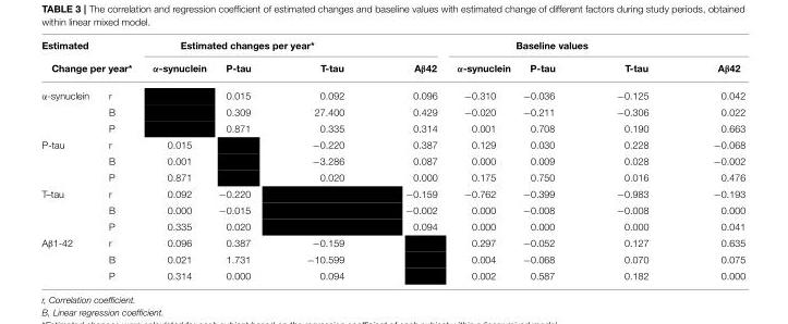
<table><thead><tr><td>Estimated</td><td colspan="4">Estimated changes per year*</td><td colspan="4">Baseline values</td><td rowspan="3">Aβ42 0.042</td></tr><tr><td colspan="2">Change per year*</td><td rowspan="2">α-synuclein</td><td rowspan="2">P-tau 0.015</td><td rowspan="2">T-tau 0.092</td><td rowspan="2">Aβ42 0.096</td><td rowspan="2">α-synuclein −0.310</td><td rowspan="2">P-tau −0.036</td><td rowspan="2">T-tau −0.125</td></tr><tr><td>α-synuclein</td><td>r</td></tr></thead><tbody><tr><td></td><td>B</td><td></td><td>0.309</td><td>27.400</td><td>0.429</td><td>−0.020</td><td>−0.211</td><td>−0.306</td><td>0.022</td></tr><tr><td></td><td>P</td><td></td><td>0.871</td><td>0.335</td><td>0.314</td><td>0.001</td><td>0.708</td><td>0.190</td><td>0.663</td></tr><tr><td rowspan="3">P-tau</td><td>r</td><td>0.015</td><td></td><td>−0.220</td><td>0.387</td><td>0.129</td><td>0.030</td><td>0.228</td><td>−0.068</td></tr><tr><td>B</td><td>0.001</td><td></td><td>−3.286</td><td>0.087</td><td>0.000</td><td>0.009</td><td>0.028</td><td>−0.002</td></tr><tr><td>P</td><td>0.871</td><td></td><td>0.020</td><td>0.000</td><td>0.175</td><td>0.750</td><td>0.016</td><td>0.476</td></tr><tr><td rowspan="3">T–tau</td><td>r</td><td>0.092</td><td>−0.220</td><td></td><td>−0.159</td><td>−0.762</td><td>−0.399</td><td>−0.983</td><td>−0.193</td></tr><tr><td>B</td><td>0.000</td><td>−0.015</td><td></td><td>−0.002</td><td>0.000</td><td>−0.008</td><td>−0.008</td><td>0.000</td></tr><tr><td>P</td><td>0.335</td><td>0.020</td><td></td><td>0.094</td><td>0.000</td><td>0.000</td><td>0.000</td><td>0.041</td></tr><tr><td rowspan="3">Aβ1-42</td><td>r</td><td>0.096</td><td>0.387</td><td>−0.159</td><td></td><td>0.297</td><td>−0.052</td><td>0.127</td><td>0.635</td></tr><tr><td>B</td><td>0.021</td><td>1.731</td><td>−10.599</td><td></td><td>0.004</td><td>−0.068</td><td>0.070</td><td>0.075</td></tr><tr><td>P</td><td>0.314</td><td>0.000</td><td>0.094</td><td></td><td>0.002</td><td>0.587</td><td>0.182</td><td>0.000</td></tr></tbody></table>